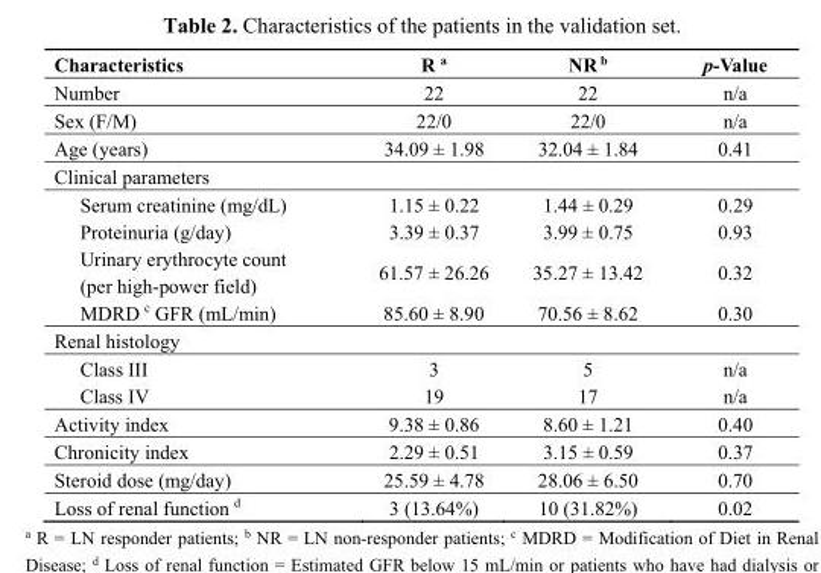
<table><thead><tr><td>Characteristics</td><td>R <sup>a</sup></td><td>NR <sup>b</sup></td><td>p-Value</td></tr></thead><tbody><tr><td>Number</td><td>22</td><td>22</td><td>n/a</td></tr><tr><td>Sex (F/M)</td><td>22/0</td><td>22/0</td><td>n/a</td></tr><tr><td>Age (years)</td><td>34.09 ± 1.98</td><td>32.04 ± 1.84</td><td>0.41</td></tr><tr><td colspan="4">Clinical parameters</td></tr><tr><td>Serum creatinine (mg/dL)</td><td>1.15 ± 0.22</td><td>1.44 ± 0.29</td><td>0.29</td></tr><tr><td>Proteinuria (g/day)</td><td>3.39 ± 0.37</td><td>3.99 ± 0.75</td><td>0.93</td></tr><tr><td>Urinary erythrocyte count (per high-power field)</td><td>61.57 ± 26.26</td><td>35.27 ± 13.42</td><td>0.32</td></tr><tr><td>MDRD <sup>c</sup> GFR (mL/min)</td><td>85.60 ± 8.90</td><td>70.56 ± 8.62</td><td>0.30</td></tr><tr><td colspan="4">Renal histology</td></tr><tr><td>Class III</td><td>3</td><td>5</td><td>n/a</td></tr><tr><td>Class IV</td><td>19</td><td>17</td><td>n/a</td></tr><tr><td>Activity index</td><td>9.38 ± 0.86</td><td>8.60 ± 1.21</td><td>0.40</td></tr><tr><td>Chronicity index</td><td>2.29 ± 0.51</td><td>3.15 ± 0.59</td><td>0.37</td></tr><tr><td>Steroid dose (mg/day)</td><td>25.59 ± 4.78</td><td>28.06 ± 6.50</td><td>0.70</td></tr><tr><td>Loss of renal function <sup>d</sup></td><td>3 (13.64%)</td><td>10 (31.82%)</td><td>0.02</td></tr></tbody></table>